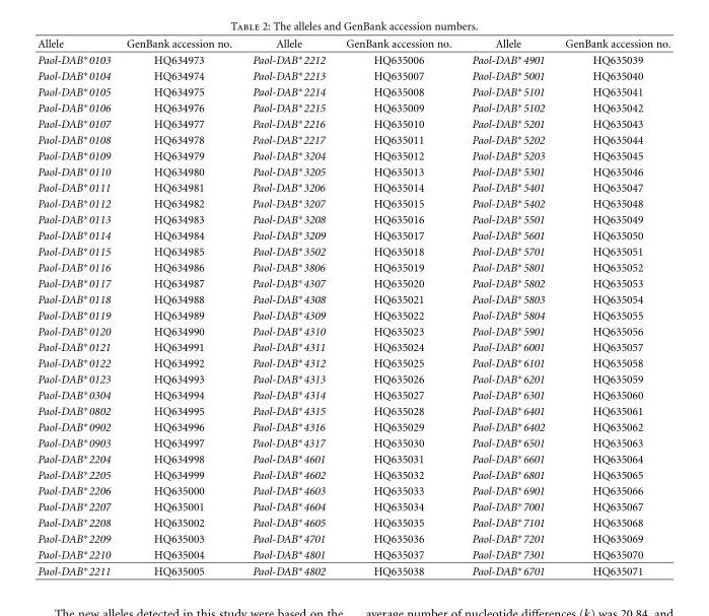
<table><thead><tr><td>Allele</td><td>GenBank accession no.</td><td>Allele</td><td>GenBank accession no.</td><td>Allele</td><td>GenBank accession no.</td></tr></thead><tbody><tr><td>Paol-DAB∗0103</td><td>HQ634973</td><td>Paol-DAB∗2212</td><td>HQ635006</td><td>Paol-DAB∗4901</td><td>HQ635039</td></tr><tr><td>Paol-DAB∗0104</td><td>HQ634974</td><td>Paol-DAB∗2213</td><td>HQ635007</td><td>Paol-DAB∗5001</td><td>HQ635040</td></tr><tr><td>Paol-DAB∗0105</td><td>HQ634975</td><td>Paol-DAB∗2214</td><td>HQ635008</td><td>Paol-DAB∗5101</td><td>HQ635041</td></tr><tr><td>Paol-DAB∗0106</td><td>HQ634976</td><td>Paol-DAB∗2215</td><td>HQ635009</td><td>Paol-DAB∗5102</td><td>HQ635042</td></tr><tr><td>Paol-DAB∗0107</td><td>HQ634977</td><td>Paol-DAB∗2216</td><td>HQ635010</td><td>Paol-DAB∗5201</td><td>HQ635043</td></tr><tr><td>Paol-DAB∗0108</td><td>HQ634978</td><td>Paol-DAB∗2217</td><td>HQ635011</td><td>Paol-DAB∗5202</td><td>HQ635044</td></tr><tr><td>Paol-DAB∗0109</td><td>HQ634979</td><td>Paol-DAB∗3204</td><td>HQ635012</td><td>Paol-DAB∗5203</td><td>HQ635045</td></tr><tr><td>Paol-DAB∗0110</td><td>HQ634980</td><td>Paol-DAB∗3205</td><td>HQ635013</td><td>Paol-DAB∗5301</td><td>HQ635046</td></tr><tr><td>Paol-DAB∗0111</td><td>HQ634981</td><td>Paol-DAB∗3206</td><td>HQ635014</td><td>Paol-DAB∗5401</td><td>HQ635047</td></tr><tr><td>Paol-DAB∗0112</td><td>HQ634982</td><td>Paol-DAB∗3207</td><td>HQ635015</td><td>Paol-DAB∗5402</td><td>HQ635048</td></tr><tr><td>Paol-DAB∗0113</td><td>HQ634983</td><td>Paol-DAB∗3208</td><td>HQ635016</td><td>Paol-DAB∗5501</td><td>HQ635049</td></tr><tr><td>Paol-DAB∗0114</td><td>HQ634984</td><td>Paol-DAB∗3209</td><td>HQ635017</td><td>Paol-DAB∗5601</td><td>HQ635050</td></tr><tr><td>Paol-DAB∗0115</td><td>HQ634985</td><td>Paol-DAB∗3502</td><td>HQ635018</td><td>Paol-DAB∗5701</td><td>HQ635051</td></tr><tr><td>Paol-DAB∗0116</td><td>HQ634986</td><td>Paol-DAB∗3806</td><td>HQ635019</td><td>Paol-DAB∗5801</td><td>HQ635052</td></tr><tr><td>Paol-DAB∗0117</td><td>HQ634987</td><td>Paol-DAB∗4307</td><td>HQ635020</td><td>Paol-DAB∗5802</td><td>HQ635053</td></tr><tr><td>Paol-DAB∗0118</td><td>HQ634988</td><td>Paol-DAB∗4308</td><td>HQ635021</td><td>Paol-DAB∗5803</td><td>HQ635054</td></tr><tr><td>Paol-DAB∗0119</td><td>HQ634989</td><td>Paol-DAB∗4309</td><td>HQ635022</td><td>Paol-DAB∗5804</td><td>HQ635055</td></tr><tr><td>Paol-DAB∗0120</td><td>HQ634990</td><td>Paol-DAB∗4310</td><td>HQ635023</td><td>Paol-DAB∗5901</td><td>HQ635056</td></tr><tr><td>Paol-DAB∗0121</td><td>HQ634991</td><td>Paol-DAB∗4311</td><td>HQ635024</td><td>Paol-DAB∗6001</td><td>HQ635057</td></tr><tr><td>Paol-DAB∗0122</td><td>HQ634992</td><td>Paol-DAB∗4312</td><td>HQ635025</td><td>Paol-DAB∗6101</td><td>HQ635058</td></tr><tr><td>Paol-DAB∗0123</td><td>HQ634993</td><td>Paol-DAB∗4313</td><td>HQ635026</td><td>Paol-DAB∗6201</td><td>HQ635059</td></tr><tr><td>Paol-DAB∗0304</td><td>HQ634994</td><td>Paol-DAB∗4314</td><td>HQ635027</td><td>Paol-DAB∗6301</td><td>HQ635060</td></tr><tr><td>Paol-DAB∗0802</td><td>HQ634995</td><td>Paol-DAB∗4315</td><td>HQ635028</td><td>Paol-DAB∗6401</td><td>HQ635061</td></tr><tr><td>Paol-DAB∗0902</td><td>HQ634996</td><td>Paol-DAB∗4316</td><td>HQ635029</td><td>Paol-DAB∗6402</td><td>HQ635062</td></tr><tr><td>Paol-DAB∗0903</td><td>HQ634997</td><td>Paol-DAB∗4317</td><td>HQ635030</td><td>Paol-DAB∗6501</td><td>HQ635063</td></tr><tr><td>Paol-DAB∗2204</td><td>HQ634998</td><td>Paol-DAB∗4601</td><td>HQ635031</td><td>Paol-DAB∗6601</td><td>HQ635064</td></tr><tr><td>Paol-DAB∗2205</td><td>HQ634999</td><td>Paol-DAB∗4602</td><td>HQ635032</td><td>Paol-DAB∗6801</td><td>HQ635065</td></tr><tr><td>Paol-DAB∗2206</td><td>HQ635000</td><td>Paol-DAB∗4603</td><td>HQ635033</td><td>Paol-DAB∗6901</td><td>HQ635066</td></tr><tr><td>Paol-DAB∗2207</td><td>HQ635001</td><td>Paol-DAB∗4604</td><td>HQ635034</td><td>Paol-DAB∗7001</td><td>HQ635067</td></tr><tr><td>Paol-DAB∗2208</td><td>HQ635002</td><td>Paol-DAB∗4605</td><td>HQ635035</td><td>Paol-DAB∗7101</td><td>HQ635068</td></tr><tr><td>Paol-DAB∗2209</td><td>HQ635003</td><td>Paol-DAB∗4701</td><td>HQ635036</td><td>Paol-DAB∗7201</td><td>HQ635069</td></tr><tr><td>Paol-DAB∗2210</td><td>HQ635004</td><td>Paol-DAB∗4801</td><td>HQ635037</td><td>Paol-DAB∗7301</td><td>HQ635070</td></tr><tr><td>Paol-DAB∗2211</td><td>HQ635005</td><td>Paol-DAB∗4802</td><td>HQ635038</td><td>Paol-DAB∗6701</td><td>HQ635071</td></tr></tbody></table>